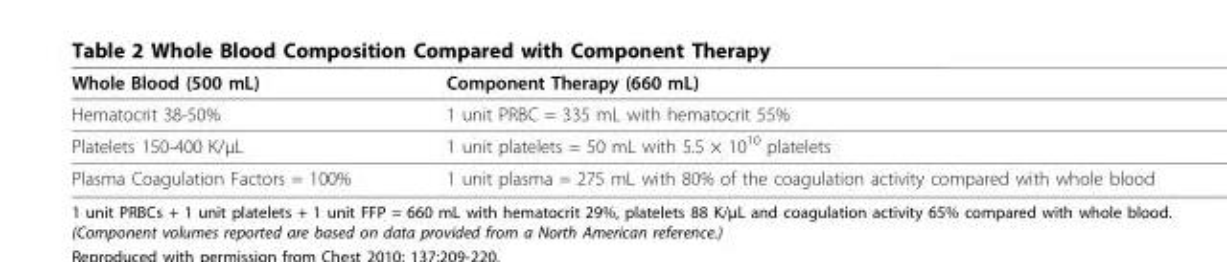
<table><thead><tr><td>Whole Blood (500 mL)</td><td>Component Therapy (660 mL)</td></tr></thead><tbody><tr><td>Hematocrit 38-50%</td><td>1 unit PRBC = 335 mL with hematocrit 55%</td></tr><tr><td>Platelets 150-400 K/μL</td><td>1 unit platelets = 50 mL with 5.5 × 10<sup>10</sup> platelets</td></tr><tr><td>Plasma Coagulation Factors = 100%</td><td>1 unit plasma = 275 mL with 80% of the coagulation activity compared with whole blood</td></tr></tbody></table>